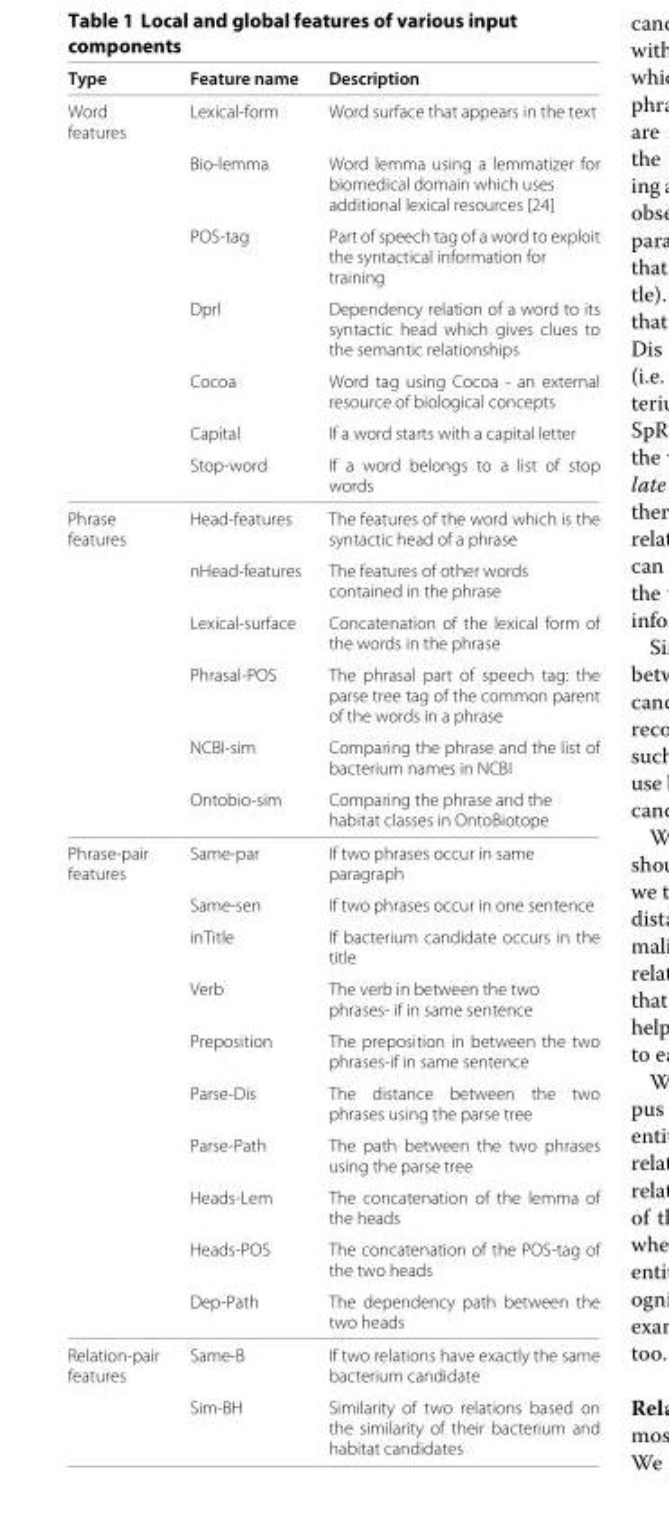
<table><thead><tr><td>Type</td><td>Feature name</td><td>Description</td></tr></thead><tbody><tr><td rowspan="7">Word features</td><td>Lexical-form</td><td>Word surface that appears in the text</td></tr><tr><td>Bio-lemma</td><td>Word lemma using a lemmatizer for biomedical domain which uses additional lexical resources [24]</td></tr><tr><td>POS-tag</td><td>Part of speech tag of a word to exploit the syntactical information for training</td></tr><tr><td>Dprl</td><td>Dependency relation of a word to its syntactic head which gives clues to the semantic relationships</td></tr><tr><td>Cocoa</td><td>Word tag using Cocoa - an external resource of biological concepts</td></tr><tr><td>Capital</td><td>If a word starts with a capital letter</td></tr><tr><td>Stop-word</td><td>If a word belongs to a list of stop words</td></tr><tr><td rowspan="6">Phrase features</td><td>Head-features</td><td>The features of the word which is the syntactic head of a phrase</td></tr><tr><td>nHead-features</td><td>The features of other words contained in the phrase</td></tr><tr><td>Lexical-surface</td><td>Concatenation of the lexical form of the words in the phrase</td></tr><tr><td>Phrasal-POS</td><td>The phrasal part of speech tag: the parse tree tag of the common parent of the words in a phrase</td></tr><tr><td>NCBI-sim</td><td>Comparing the phrase and the list of bacterium names in NCBI</td></tr><tr><td>Ontobio-sim</td><td>Comparing the phrase and the habitat classes in OntoBiotope</td></tr><tr><td rowspan="10">Phrase-pair features</td><td>Same-par</td><td>If two phrases occur in same paragraph</td></tr><tr><td>Same-sen</td><td>If two phrases occur in one sentence</td></tr><tr><td>inTitle</td><td>If bacterium candidate occurs in the title</td></tr><tr><td>Verb</td><td>The verb in between the two phrases- if in same sentence</td></tr><tr><td>Preposition</td><td>The preposition in between the two phrases-if in same sentence</td></tr><tr><td>Parse-Dis</td><td>The distance between the two phrases using the parse tree</td></tr><tr><td>Parse-Path</td><td>The path between the two phrases using the parse tree</td></tr><tr><td>Heads-Lem</td><td>The concatenation of the lemma of the heads</td></tr><tr><td>Heads-POS</td><td>The concatenation of the POS-tag of the two heads</td></tr><tr><td>Dep-Path</td><td>The dependency path between the two heads</td></tr><tr><td rowspan="2">Relation-pair features</td><td>Same-B</td><td>If two relations have exactly the same bacterium candidate</td></tr><tr><td>Sim-BH</td><td>Similarity of two relations based on the similarity of their bacterium and habitat candidates</td></tr></tbody></table>